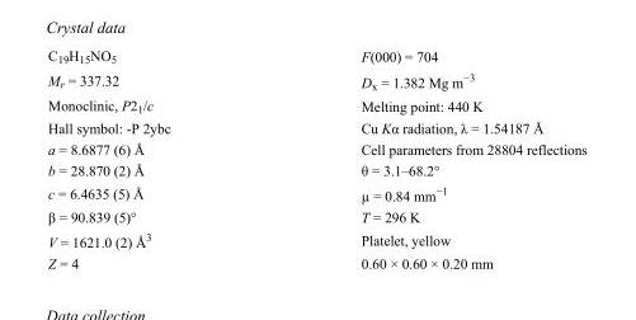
<table><tbody><tr><td>C<sub>19</sub>H<sub>15</sub>NO<sub>5</sub></td><td>F(000) = 704</td></tr><tr><td>M<sub>r</sub> = 337.32</td><td>D<sub>x</sub> = 1.382 Mg m<sup>−3</sup></td></tr><tr><td>Monoclinic, P2<sub>1</sub>/c</td><td>Melting point: 440 K</td></tr><tr><td>Hall symbol: -P 2ybc</td><td>Cu Kα radiation, λ = 1.54187 Å</td></tr><tr><td>a = 8.6877 (6) Å</td><td>Cell parameters from 28804 reflections</td></tr><tr><td>b = 28.870 (2) Å</td><td>θ = 3.1–68.2°</td></tr><tr><td>c = 6.4635 (5) Å</td><td>µ = 0.84 mm<sup>−1</sup></td></tr><tr><td>β = 90.839 (5)°</td><td>T = 296 K</td></tr><tr><td>V = 1621.0 (2) Å<sup>3</sup></td><td>Platelet, yellow</td></tr><tr><td>Z = 4</td><td>0.60 × 0.60 × 0.20 mm</td></tr></tbody></table>